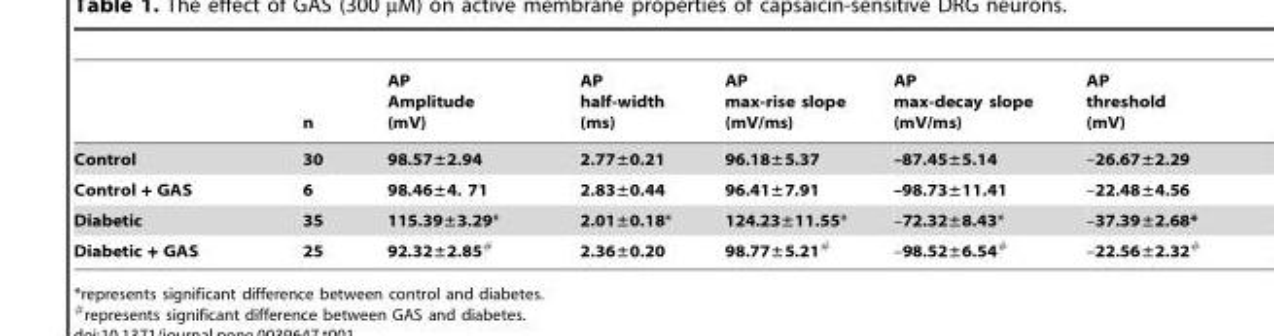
<table><thead><tr><td></td><td>n</td><td>AP Amplitude (mV)</td><td>AP half-width (ms)</td><td>AP max-rise slope (mV/ms)</td><td>AP max-decay slope (mV/ms)</td><td>AP threshold (mV)</td></tr></thead><tbody><tr><td>Control</td><td>30</td><td>98.57±2.94</td><td>2.77±0.21</td><td>96.18±5.37</td><td>–87.45±5.14</td><td>–26.67±2.29</td></tr><tr><td>Control + GAS</td><td>6</td><td>98.46±4. 71</td><td>2.83±0.44</td><td>96.41±7.91</td><td>–98.73±11.41</td><td>–22.48±4.56</td></tr><tr><td>Diabetic</td><td>35</td><td>115.39±3.29*</td><td>2.01±0.18*</td><td>124.23±11.55*</td><td>–72.32±8.43*</td><td>–37.39±2.68*</td></tr><tr><td>Diabetic + GAS</td><td>25</td><td>92.32±2.85#</td><td>2.36±0.20</td><td>98.77±5.21#</td><td>–98.52±6.54#</td><td>–22.56±2.32#</td></tr></tbody></table>